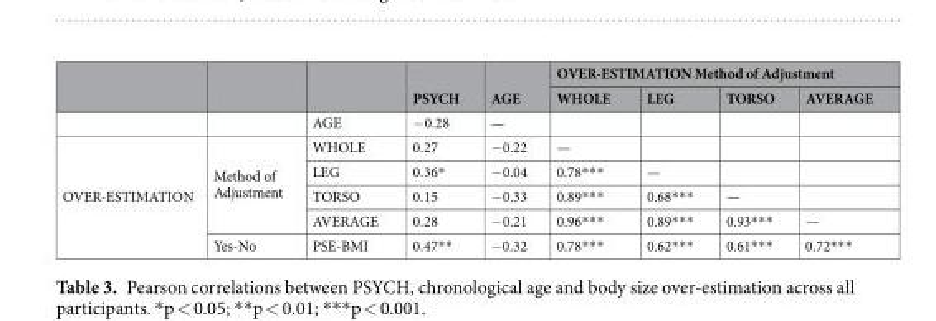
<table><thead><tr><td rowspan="2"></td><td rowspan="2"></td><td rowspan="2"></td><td rowspan="2">PSYCH</td><td rowspan="2">AGE</td><td colspan="4">OVER-ESTIMATION Method of Adjustment</td></tr><tr><td>WHOLE</td><td>LEG</td><td>TORSO</td><td>AVERAGE</td></tr></thead><tbody><tr><td></td><td></td><td>AGE</td><td>−0.28</td><td>—</td><td></td><td></td><td></td><td></td></tr><tr><td rowspan="5">OVER-ESTIMATION</td><td rowspan="4">Method of Adjustment</td><td>WHOLE</td><td>0.27</td><td>−0.22</td><td>—</td><td></td><td></td><td></td></tr><tr><td>LEG</td><td>0.36*</td><td>−0.04</td><td>0.78***</td><td>—</td><td></td><td></td></tr><tr><td>TORSO</td><td>0.15</td><td>−0.33</td><td>0.89***</td><td>0.68***</td><td>—</td><td></td></tr><tr><td>AVERAGE</td><td>0.28</td><td>−0.21</td><td>0.96***</td><td>0.89***</td><td>0.93***</td><td>—</td></tr><tr><td>Yes-No</td><td>PSE-BMI</td><td>0.47**</td><td>−0.32</td><td>0.78***</td><td>0.62***</td><td>0.61***</td><td>0.72***</td></tr></tbody></table>